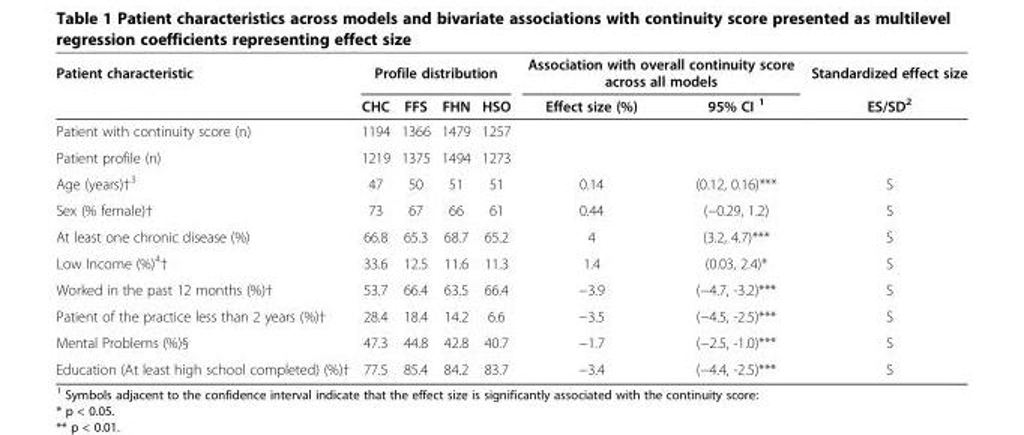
<table><thead><tr><td rowspan="2">Patient characteristic</td><td colspan="4">Profile distribution</td><td colspan="2">Association with overall continuity score across all models</td><td rowspan="2">Standardized effect size ES/SD<sup>2</sup></td></tr><tr><td>CHC</td><td>FFS</td><td>FHN</td><td>HSO</td><td>Effect size (%)</td><td>95% CI <sup>1</sup></td></tr></thead><tbody><tr><td>Patient with continuity score (n)</td><td>1194</td><td>1366</td><td>1479</td><td>1257</td><td></td><td></td><td></td></tr><tr><td>Patient profile (n)</td><td>1219</td><td>1375</td><td>1494</td><td>1273</td><td></td><td></td><td></td></tr><tr><td>Age (years)†<sup>3</sup></td><td>47</td><td>50</td><td>51</td><td>51</td><td>0.14</td><td>(0.12, 0.16)***</td><td>S</td></tr><tr><td>Sex (% female)†</td><td>73</td><td>67</td><td>66</td><td>61</td><td>0.44</td><td>(−0.29, 1.2)</td><td>S</td></tr><tr><td>At least one chronic disease (%)</td><td>66.8</td><td>65.3</td><td>68.7</td><td>65.2</td><td>4</td><td>(3.2, 4.7)***</td><td>S</td></tr><tr><td>Low Income (%)<sup>4</sup>†</td><td>33.6</td><td>12.5</td><td>11.6</td><td>11.3</td><td>1.4</td><td>(0.03, 2.4)*</td><td>S</td></tr><tr><td>Worked in the past 12 months (%)†</td><td>53.7</td><td>66.4</td><td>63.5</td><td>66.4</td><td>−3.9</td><td>(−4.7, -3.2)***</td><td>S</td></tr><tr><td>Patient of the practice less than 2 years (%)†</td><td>28.4</td><td>18.4</td><td>14.2</td><td>6.6</td><td>−3.5</td><td>(−4.5, -2.5)***</td><td>S</td></tr><tr><td>Mental Problems (%)§</td><td>47.3</td><td>44.8</td><td>42.8</td><td>40.7</td><td>−1.7</td><td>(−2.5, -1.0)***</td><td>S</td></tr><tr><td>Education (At least high school completed) (%)†</td><td>77.5</td><td>85.4</td><td>84.2</td><td>83.7</td><td>−3.4</td><td>(−4.4, -2.5)***</td><td>S</td></tr></tbody></table>